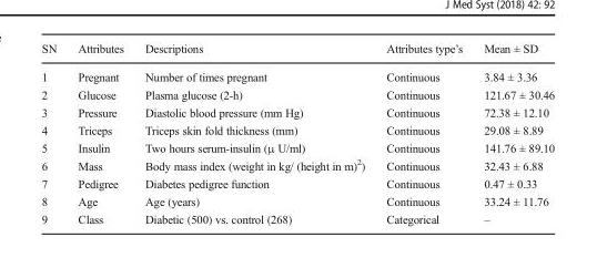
<table><thead><tr><td>SN</td><td>Attributes</td><td>Descriptions</td><td>Attributes type’s</td><td>Mean ± SD</td></tr></thead><tbody><tr><td>1</td><td>Pregnant</td><td>Number of times pregnant</td><td>Continuous</td><td>3.84 ± 3.36</td></tr><tr><td>2</td><td>Glucose</td><td>Plasma glucose (2-h)</td><td>Continuous</td><td>121.67 ± 30.46</td></tr><tr><td>3</td><td>Pressure</td><td>Diastolic blood pressure (mm Hg)</td><td>Continuous</td><td>72.38 ± 12.10</td></tr><tr><td>4</td><td>Triceps</td><td>Triceps skin fold thickness (mm)</td><td>Continuous</td><td>29.08 ± 8.89</td></tr><tr><td>5</td><td>Insulin</td><td>Two hours serum-insulin (μ U/ml)</td><td>Continuous</td><td>141.76 ± 89.10</td></tr><tr><td>6</td><td>Mass</td><td>Body mass index (weight in kg/ (height in m)<sup>2</sup>)</td><td>Continuous</td><td>32.43 ± 6.88</td></tr><tr><td>7</td><td>Pedigree</td><td>Diabetes pedigree function</td><td>Continuous</td><td>0.47 ± 0.33</td></tr><tr><td>8</td><td>Age</td><td>Age (years)</td><td>Continuous</td><td>33.24 ± 11.76</td></tr><tr><td>9</td><td>Class</td><td>Diabetic (500) vs. control (268)</td><td>Categorical</td><td>–</td></tr></tbody></table>